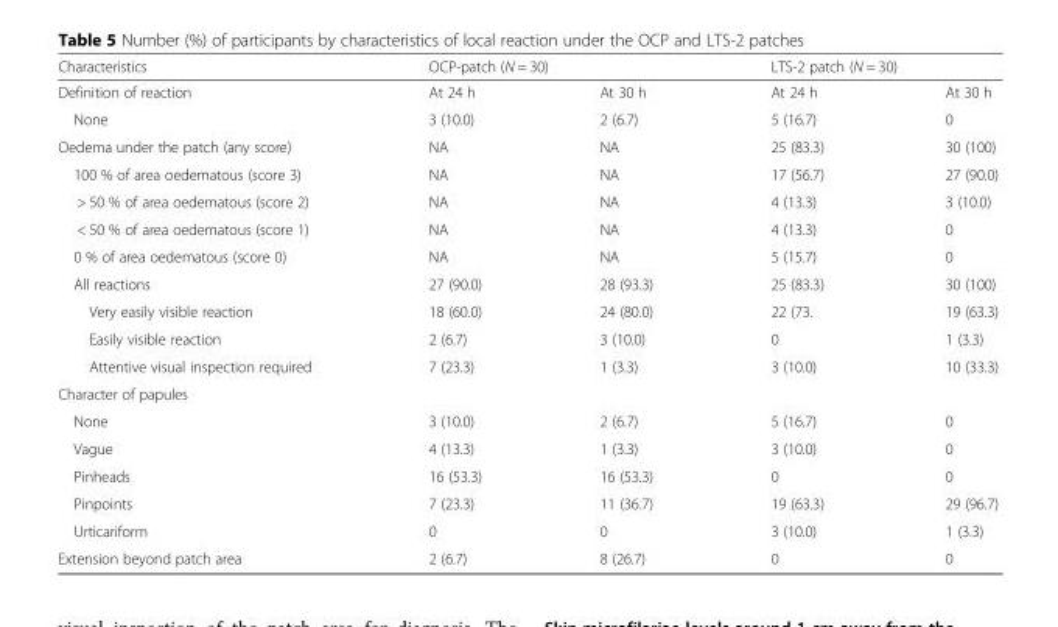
<table><thead><tr><td rowspan="2">Characteristics Definition of reaction</td><td colspan="2">OCP-patch (N = 30)</td><td colspan="2">LTS-2 patch (N = 30)</td></tr><tr><td>At 24 h</td><td>At 30 h</td><td>At 24 h</td><td>At 30 h</td></tr></thead><tbody><tr><td>None</td><td>3 (10.0)</td><td>2 (6.7)</td><td>5 (16.7)</td><td>0</td></tr><tr><td>Oedema under the patch (any score)</td><td>NA</td><td>NA</td><td>25 (83.3)</td><td>30 (100)</td></tr><tr><td>100 % of area oedematous (score 3)</td><td>NA</td><td>NA</td><td>17 (56.7)</td><td>27 (90.0)</td></tr><tr><td>&gt; 50 % of area oedematous (score 2)</td><td>NA</td><td>NA</td><td>4 (13.3)</td><td>3 (10.0)</td></tr><tr><td>&lt; 50 % of area oedematous (score 1)</td><td>NA</td><td>NA</td><td>4 (13.3)</td><td>0</td></tr><tr><td>0 % of area oedematous (score 0)</td><td>NA</td><td>NA</td><td>5 (15.7)</td><td>0</td></tr><tr><td>All reactions</td><td>27 (90.0)</td><td>28 (93.3)</td><td>25 (83.3)</td><td>30 (100)</td></tr><tr><td>Very easily visible reaction</td><td>18 (60.0)</td><td>24 (80.0)</td><td>22 (73.</td><td>19 (63.3)</td></tr><tr><td>Easily visible reaction</td><td>2 (6.7)</td><td>3 (10.0)</td><td>0</td><td>1 (3.3)</td></tr><tr><td>Attentive visual inspection required</td><td>7 (23.3)</td><td>1 (3.3)</td><td>3 (10.0)</td><td>10 (33.3)</td></tr><tr><td colspan="5">Character of papules</td></tr><tr><td>None</td><td>3 (10.0)</td><td>2 (6.7)</td><td>5 (16.7)</td><td>0</td></tr><tr><td>Vague</td><td>4 (13.3)</td><td>1 (3.3)</td><td>3 (10.0)</td><td>0</td></tr><tr><td>Pinheads</td><td>16 (53.3)</td><td>16 (53.3)</td><td>0</td><td>0</td></tr><tr><td>Pinpoints</td><td>7 (23.3)</td><td>11 (36.7)</td><td>19 (63.3)</td><td>29 (96.7)</td></tr><tr><td>Urticariform</td><td>0</td><td>0</td><td>3 (10.0)</td><td>1 (3.3)</td></tr><tr><td>Extension beyond patch area</td><td>2 (6.7)</td><td>8 (26.7)</td><td>0</td><td>0</td></tr></tbody></table>